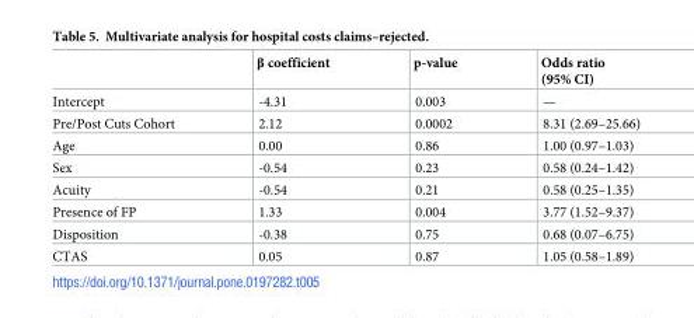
<table><thead><tr><td></td><td>β coefficient</td><td>p-value</td><td>Odds ratio (95% CI)</td></tr></thead><tbody><tr><td>Intercept</td><td>-4.31</td><td>0.003</td><td>—</td></tr><tr><td>Pre/Post Cuts Cohort</td><td>2.12</td><td>0.0002</td><td>8.31 (2.69–25.66)</td></tr><tr><td>Age</td><td>0.00</td><td>0.86</td><td>1.00 (0.97–1.03)</td></tr><tr><td>Sex</td><td>-0.54</td><td>0.23</td><td>0.58 (0.24–1.42)</td></tr><tr><td>Acuity</td><td>-0.54</td><td>0.21</td><td>0.58 (0.25–1.35)</td></tr><tr><td>Presence of FP</td><td>1.33</td><td>0.004</td><td>3.77 (1.52–9.37)</td></tr><tr><td>Disposition</td><td>-0.38</td><td>0.75</td><td>0.68 (0.07–6.75)</td></tr><tr><td>CTAS</td><td>0.05</td><td>0.87</td><td>1.05 (0.58–1.89)</td></tr></tbody></table>